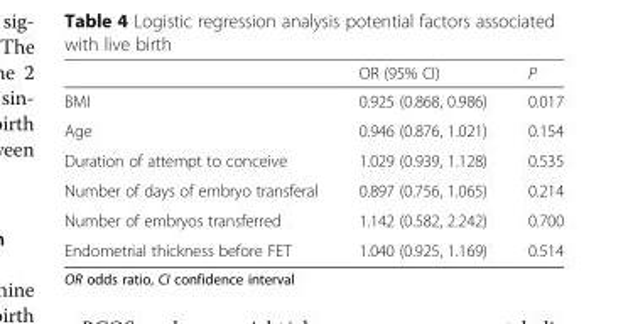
<table><thead><tr><td></td><td>OR (95% CI)</td><td>P</td></tr></thead><tbody><tr><td>BMI</td><td>0.925 (0.868, 0.986)</td><td>0.017</td></tr><tr><td>Age</td><td>0.946 (0.876, 1.021)</td><td>0.154</td></tr><tr><td>Duration of attempt to conceive</td><td>1.029 (0.939, 1.128)</td><td>0.535</td></tr><tr><td>Number of days of embryo transferal</td><td>0.897 (0.756, 1.065)</td><td>0.214</td></tr><tr><td>Number of embryos transferred</td><td>1.142 (0.582, 2.242)</td><td>0.700</td></tr><tr><td>Endometrial thickness before FET</td><td>1.040 (0.925, 1.169)</td><td>0.514</td></tr></tbody></table>